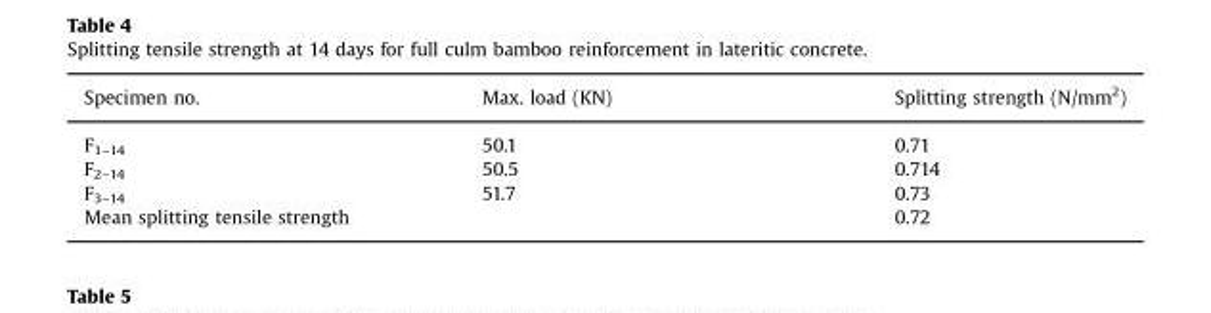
<table><thead><tr><td>Specimen no.</td><td>Max. load (KN)</td><td>Splitting strength (N/mm<sup>2</sup>)</td></tr></thead><tbody><tr><td>F<sub>1–14</sub></td><td>50.1</td><td>0.71</td></tr><tr><td>F<sub>2–14</sub></td><td>50.5</td><td>0.714</td></tr><tr><td>F<sub>3–14</sub></td><td>51.7</td><td>0.73</td></tr><tr><td colspan="2">Mean splitting tensile strength</td><td>0.72</td></tr></tbody></table>